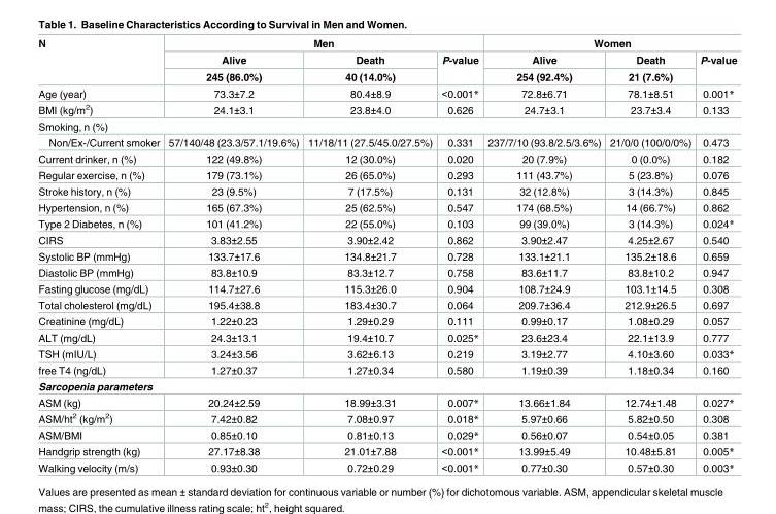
<table><thead><tr><td rowspan="3">N</td><td colspan="3">Men</td><td colspan="3">Women</td></tr><tr><td rowspan="2">Alive 245 (86.0%)</td><td rowspan="2">Death 40 (14.0%)</td><td rowspan="2">P-value</td><td rowspan="2">Alive 254 (92.4%)</td><td rowspan="2">Death 21 (7.6%)</td><td rowspan="2">P-value</td></tr><tr></tr></thead><tbody><tr><td>Age (year)</td><td>73.3±7.2</td><td>80.4±8.9</td><td>&lt;0.001*</td><td>72.8±6.71</td><td>78.1±8.51</td><td>0.001*</td></tr><tr><td>BMI (kg/m<sup>2</sup>)</td><td>24.1±3.1</td><td>23.8±4.0</td><td>0.626</td><td>24.7±3.1</td><td>23.7±3.4</td><td>0.133</td></tr><tr><td colspan="7">Smoking, n (%)</td></tr><tr><td>Non/Ex-/Current smoker</td><td>57/140/48 (23.3/57.1/19.6%)</td><td>11/18/11 (27.5/45.0/27.5%)</td><td>0.331</td><td>237/7/10 (93.8/2.5/3.6%)</td><td>21/0/0 (100/0/0%)</td><td>0.473</td></tr><tr><td>Current drinker, n (%)</td><td>122 (49.8%)</td><td>12 (30.0%)</td><td>0.020</td><td>20 (7.9%)</td><td>0 (0.0%)</td><td>0.182</td></tr><tr><td>Regular exercise, n (%)</td><td>179 (73.1%)</td><td>26 (65.0%)</td><td>0.293</td><td>111 (43.7%)</td><td>5 (23.8%)</td><td>0.076</td></tr><tr><td>Stroke history, n (%)</td><td>23 (9.5%)</td><td>7 (17.5%)</td><td>0.131</td><td>32 (12.8%)</td><td>3 (14.3%)</td><td>0.845</td></tr><tr><td>Hypertension, n (%)</td><td>165 (67.3%)</td><td>25 (62.5%)</td><td>0.547</td><td>174 (68.5%)</td><td>14 (66.7%)</td><td>0.862</td></tr><tr><td>Type 2 Diabetes, n (%)</td><td>101 (41.2%)</td><td>22 (55.0%)</td><td>0.103</td><td>99 (39.0%)</td><td>3 (14.3%)</td><td>0.024*</td></tr><tr><td>CIRS</td><td>3.83±2.55</td><td>3.90±2.42</td><td>0.862</td><td>3.90±2.47</td><td>4.25±2.67</td><td>0.540</td></tr><tr><td>Systolic BP (mmHg)</td><td>133.7±17.6</td><td>134.8±21.7</td><td>0.728</td><td>133.1±21.1</td><td>135.2±18.6</td><td>0.659</td></tr><tr><td>Diastolic BP (mmHg)</td><td>83.8±10.9</td><td>83.3±12.7</td><td>0.758</td><td>83.6±11.7</td><td>83.8±10.2</td><td>0.947</td></tr><tr><td>Fasting glucose (mg/dL)</td><td>114.7±27.6</td><td>115.3±26.0</td><td>0.904</td><td>108.7±24.9</td><td>103.1±14.5</td><td>0.308</td></tr><tr><td>Total cholesterol (mg/dL)</td><td>195.4±38.8</td><td>183.4±30.7</td><td>0.064</td><td>209.7±36.4</td><td>212.9±26.5</td><td>0.697</td></tr><tr><td>Creatinine (mg/dL)</td><td>1.22±0.23</td><td>1.29±0.29</td><td>0.111</td><td>0.99±0.17</td><td>1.08±0.29</td><td>0.057</td></tr><tr><td>ALT (mg/dL)</td><td>24.3±13.1</td><td>19.4±10.7</td><td>0.025*</td><td>23.6±23.4</td><td>22.1±13.9</td><td>0.777</td></tr><tr><td>TSH (mIU/L)</td><td>3.24±3.56</td><td>3.62±6.13</td><td>0.219</td><td>3.19±2.77</td><td>4.10±3.60</td><td>0.033*</td></tr><tr><td>free T4 (ng/dL)</td><td>1.27±0.37</td><td>1.27±0.34</td><td>0.580</td><td>1.19±0.39</td><td>1.18±0.34</td><td>0.160</td></tr><tr><td colspan="7">Sarcopenia parameters</td></tr><tr><td>ASM (kg)</td><td>20.24±2.59</td><td>18.99±3.31</td><td>0.007*</td><td>13.66±1.84</td><td>12.74±1.48</td><td>0.027*</td></tr><tr><td>ASM/ht<sup>2</sup> (kg/m<sup>2</sup>)</td><td>7.42±0.82</td><td>7.08±0.97</td><td>0.018*</td><td>5.97±0.66</td><td>5.82±0.50</td><td>0.308</td></tr><tr><td>ASM/BMI</td><td>0.85±0.10</td><td>0.81±0.13</td><td>0.029*</td><td>0.56±0.07</td><td>0.54±0.05</td><td>0.381</td></tr><tr><td>Handgrip strength (kg)</td><td>27.17±8.38</td><td>21.01±7.88</td><td>&lt;0.001*</td><td>13.99±5.49</td><td>10.48±5.81</td><td>0.005*</td></tr><tr><td>Walking velocity (m/s)</td><td>0.93±0.30</td><td>0.72±0.29</td><td>&lt;0.001*</td><td>0.77±0.30</td><td>0.57±0.30</td><td>0.003*</td></tr></tbody></table>